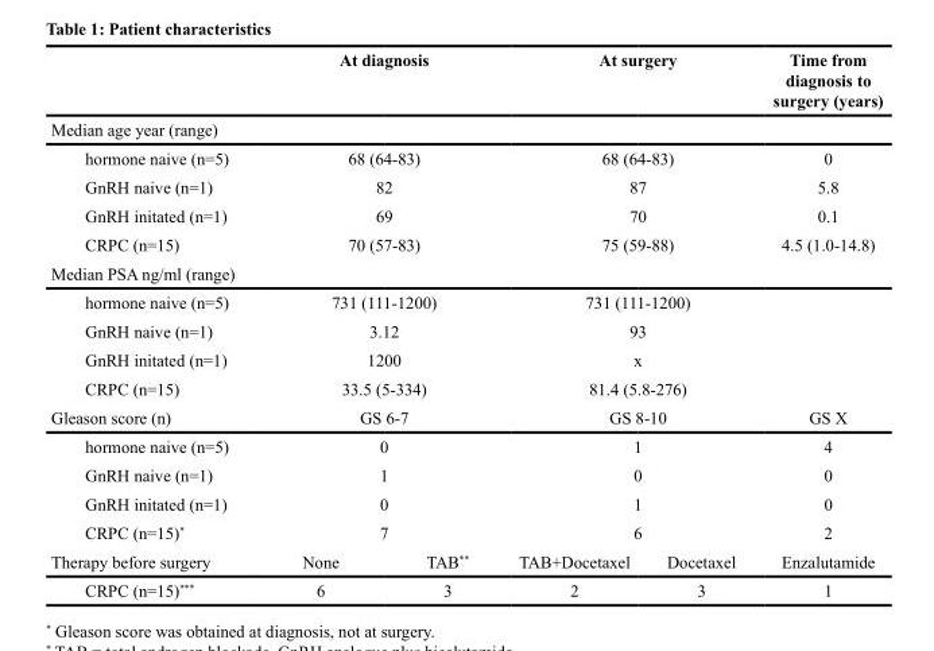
<table><thead><tr><td></td><td colspan="2">At diagnosis</td><td colspan="2">At surgery</td><td>Time from diagnosis to surgery (years)</td></tr></thead><tbody><tr><td colspan="6">Median age year (range)</td></tr><tr><td>hormone naive (n=5)</td><td colspan="2">68 (64-83)</td><td colspan="2">68 (64-83)</td><td>0</td></tr><tr><td>GnRH naive (n=1)</td><td colspan="2">82</td><td colspan="2">87</td><td>5.8</td></tr><tr><td>GnRH initated (n=1)</td><td colspan="2">69</td><td colspan="2">70</td><td>0.1</td></tr><tr><td>CRPC (n=15)</td><td colspan="2">70 (57-83)</td><td colspan="2">75 (59-88)</td><td>4.5 (1.0-14.8)</td></tr><tr><td colspan="6">Median PSA ng/ml (range)</td></tr><tr><td>hormone naive (n=5)</td><td colspan="2">731 (111-1200)</td><td colspan="2">731 (111-1200)</td><td></td></tr><tr><td>GnRH naive (n=1)</td><td colspan="2">3.12</td><td colspan="2">93</td><td></td></tr><tr><td>GnRH initated (n=1)</td><td colspan="2">1200</td><td colspan="2">x</td><td></td></tr><tr><td>CRPC (n=15)</td><td colspan="2">33.5 (5-334)</td><td colspan="2">81.4 (5.8-276)</td><td></td></tr><tr><td>Gleason score (n)</td><td colspan="2">GS 6-7</td><td colspan="2">GS 8-10</td><td>GS X</td></tr><tr><td>hormone naive (n=5)</td><td colspan="2">0</td><td colspan="2">1</td><td>4</td></tr><tr><td>GnRH naive (n=1)</td><td colspan="2">1</td><td colspan="2">0</td><td>0</td></tr><tr><td>GnRH initated (n=1)</td><td colspan="2">0</td><td colspan="2">1</td><td>0</td></tr><tr><td>CRPC (n=15)*</td><td colspan="2">7</td><td colspan="2">6</td><td>2</td></tr><tr><td>Therapy before surgery</td><td>None</td><td>TAB**</td><td>TAB+Docetaxel</td><td>Docetaxel</td><td>Enzalutamide</td></tr><tr><td>CRPC (n=15)***</td><td>6</td><td>3</td><td>2</td><td>3</td><td>1</td></tr></tbody></table>